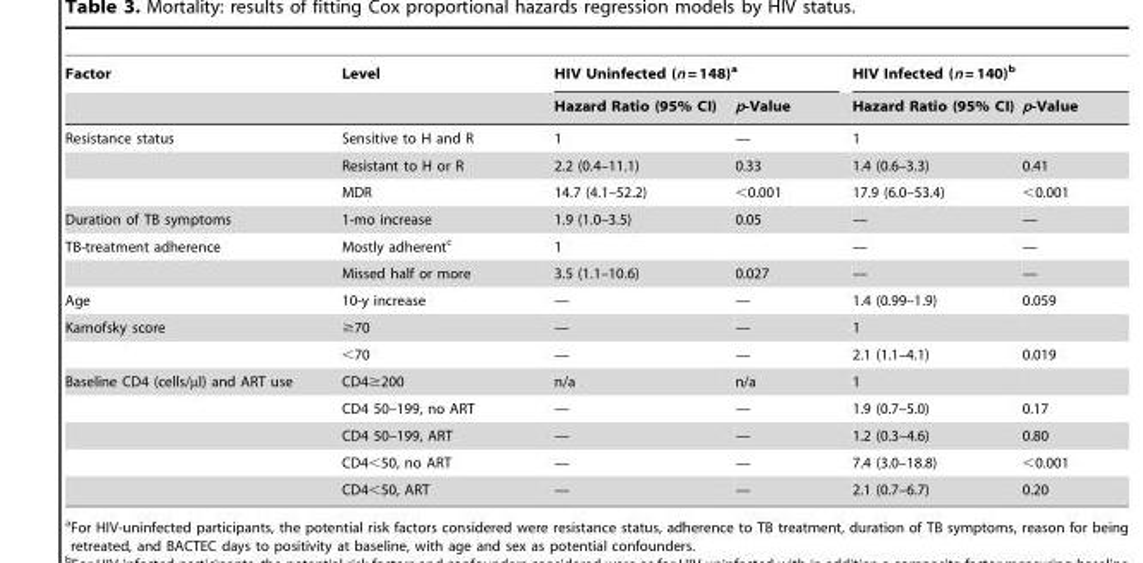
<table><thead><tr><td rowspan="2">Factor</td><td rowspan="2">Level</td><td colspan="2">HIV Uninfected (n = 148)<sup>a</sup></td><td colspan="2">HIV Infected (n = 140)<sup>b</sup></td></tr><tr><td>Hazard Ratio (95% CI)</td><td>p-Value</td><td>Hazard Ratio (95% CI)</td><td>p-Value</td></tr></thead><tbody><tr><td rowspan="3">Resistance status</td><td>Sensitive to H and R</td><td>1</td><td>—</td><td>1</td><td></td></tr><tr><td>Resistant to H or R</td><td>2.2 (0.4–11.1)</td><td>0.33</td><td>1.4 (0.6–3.3)</td><td>0.41</td></tr><tr><td>MDR</td><td>14.7 (4.1–52.2)</td><td>&lt;0.001</td><td>17.9 (6.0–53.4)</td><td>&lt;0.001</td></tr><tr><td>Duration of TB symptoms</td><td>1-mo increase</td><td>1.9 (1.0–3.5)</td><td>0.05</td><td>—</td><td>—</td></tr><tr><td rowspan="2">TB-treatment adherence</td><td>Mostly adherent<sup>c</sup></td><td>1</td><td></td><td>—</td><td>—</td></tr><tr><td>Missed half or more</td><td>3.5 (1.1–10.6)</td><td>0.027</td><td>—</td><td>—</td></tr><tr><td>Age</td><td>10-y increase</td><td>—</td><td>—</td><td>1.4 (0.99–1.9)</td><td>0.059</td></tr><tr><td rowspan="2">Karnofsky score</td><td>≥70</td><td>—</td><td>—</td><td>1</td><td></td></tr><tr><td>&lt;70</td><td>—</td><td>—</td><td>2.1 (1.1–4.1)</td><td>0.019</td></tr><tr><td rowspan="5">Baseline CD4 (cells/µl) and ART use</td><td>CD4≥200</td><td>n/a</td><td>n/a</td><td>1</td><td></td></tr><tr><td>CD4 50–199, no ART</td><td>—</td><td>—</td><td>1.9 (0.7–5.0)</td><td>0.17</td></tr><tr><td>CD4 50–199, ART</td><td>—</td><td>—</td><td>1.2 (0.3–4.6)</td><td>0.80</td></tr><tr><td>CD4&lt;50, no ART</td><td>—</td><td>—</td><td>7.4 (3.0–18.8)</td><td>&lt;0.001</td></tr><tr><td>CD4&lt;50, ART</td><td>—</td><td>—</td><td>2.1 (0.7–6.7)</td><td>0.20</td></tr></tbody></table>